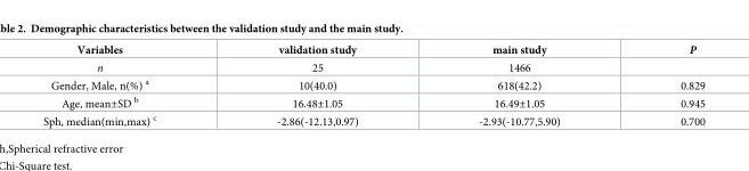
<table><thead><tr><td>Variables</td><td>validation study</td><td>main study</td><td>P</td></tr></thead><tbody><tr><td>n</td><td>25</td><td>1466</td><td></td></tr><tr><td>Gender, Male, n(%) <sup>a</sup></td><td>10(40.0)</td><td>618(42.2)</td><td>0.829</td></tr><tr><td>Age, mean±SD <sup>b</sup></td><td>16.48±1.05</td><td>16.49±1.05</td><td>0.945</td></tr><tr><td>Sph, median(min,max) <sup>c</sup></td><td>-2.86(-12.13,0.97)</td><td>-2.93(-10.77,5.90)</td><td>0.700</td></tr></tbody></table>